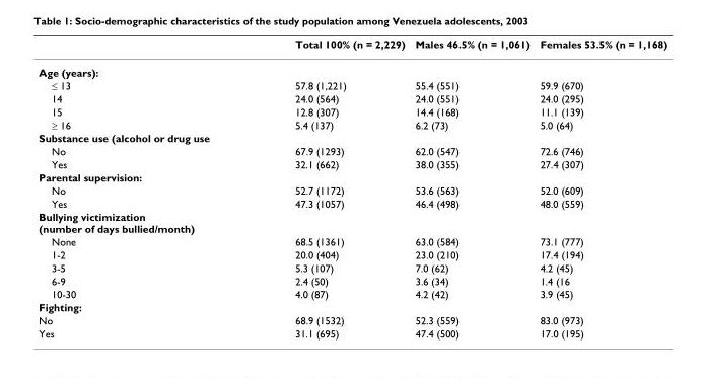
<table><thead><tr><td></td><td>Total 100% (n = 2,229)</td><td>Males 46.5% (n = 1,061)</td><td>Females 53.5% (n = 1,168)</td></tr></thead><tbody><tr><td colspan="4">Age (years):</td></tr><tr><td>≤ 13</td><td>57.8 (1,221)</td><td>55.4 (551)</td><td>59.9 (670)</td></tr><tr><td>14</td><td>24.0 (564)</td><td>24.0 (551)</td><td>24.0 (295)</td></tr><tr><td>15</td><td>12.8 (307)</td><td>14.4 (168)</td><td>11.1 (139)</td></tr><tr><td>≥ 16</td><td>5.4 (137)</td><td>6.2 (73)</td><td>5.0 (64)</td></tr><tr><td colspan="4">Substance use (alcohol or drug use</td></tr><tr><td>No</td><td>67.9 (1293)</td><td>62.0 (547)</td><td>72.6 (746)</td></tr><tr><td>Yes</td><td>32.1 (662)</td><td>38.0 (355)</td><td>27.4 (307)</td></tr><tr><td colspan="4">Parental supervision:</td></tr><tr><td>No</td><td>52.7 (1172)</td><td>53.6 (563)</td><td>52.0 (609)</td></tr><tr><td>Yes</td><td>47.3 (1057)</td><td>46.4 (498)</td><td>48.0 (559)</td></tr><tr><td colspan="4">Bullying victimization (number of days bullied/month)</td></tr><tr><td>None</td><td>68.5 (1361)</td><td>63.0 (584)</td><td>73.1 (777)</td></tr><tr><td>1-2</td><td>20.0 (404)</td><td>23.0 (210)</td><td>17.4 (194)</td></tr><tr><td>3-5</td><td>5.3 (107)</td><td>7.0 (62)</td><td>4.2 (45)</td></tr><tr><td>6-9</td><td>2.4 (50)</td><td>3.6 (34)</td><td>1.4 (16</td></tr><tr><td>10-30</td><td>4.0 (87)</td><td>4.2 (42)</td><td>3.9 (45)</td></tr><tr><td colspan="4">Fighting:</td></tr><tr><td>No</td><td>68.9 (1532)</td><td>52.3 (559)</td><td>83.0 (973)</td></tr><tr><td>Yes</td><td>31.1 (695)</td><td>47.4 (500)</td><td>17.0 (195)</td></tr></tbody></table>